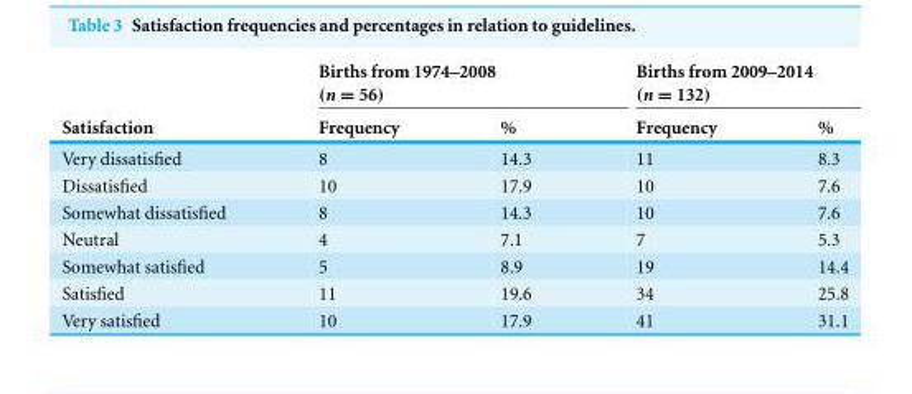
<table><thead><tr><td rowspan="2">Satisfaction</td><td colspan="2">Births from 1974–2008 (n = 56)</td><td colspan="2">Births from 2009–2014 (n = 132)</td></tr><tr><td>Frequency</td><td>%</td><td>Frequency</td><td>%</td></tr></thead><tbody><tr><td>Very dissatisfied</td><td>8</td><td>14.3</td><td>11</td><td>8.3</td></tr><tr><td>Dissatisfied</td><td>10</td><td>17.9</td><td>10</td><td>7.6</td></tr><tr><td>Somewhat dissatisfied</td><td>8</td><td>14.3</td><td>10</td><td>7.6</td></tr><tr><td>Neutral</td><td>4</td><td>7.1</td><td>7</td><td>5.3</td></tr><tr><td>Somewhat satisfied</td><td>5</td><td>8.9</td><td>19</td><td>14.4</td></tr><tr><td>Satisfied</td><td>11</td><td>19.6</td><td>34</td><td>25.8</td></tr><tr><td>Very satisfied</td><td>10</td><td>17.9</td><td>41</td><td>31.1</td></tr></tbody></table>